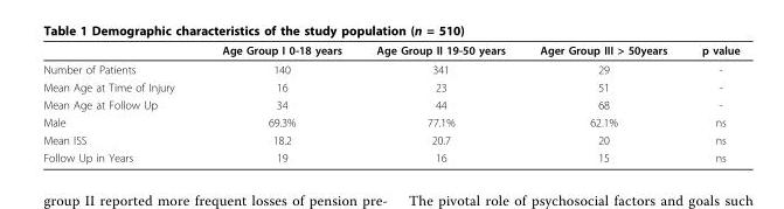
<table><thead><tr><td></td><td>Age Group I 0-18 years</td><td>Age Group II 19-50 years</td><td>Ager Group III &gt; 50years</td><td>p value</td></tr></thead><tbody><tr><td>Number of Patients</td><td>140</td><td>341</td><td>29</td><td>-</td></tr><tr><td>Mean Age at Time of Injury</td><td>16</td><td>23</td><td>51</td><td>-</td></tr><tr><td>Mean Age at Follow Up</td><td>34</td><td>44</td><td>68</td><td>-</td></tr><tr><td>Male</td><td>69.3%</td><td>77.1%</td><td>62.1%</td><td>ns</td></tr><tr><td>Mean ISS</td><td>18.2</td><td>20.7</td><td>20</td><td>ns</td></tr><tr><td>Follow Up in Years</td><td>19</td><td>16</td><td>15</td><td>ns</td></tr></tbody></table>